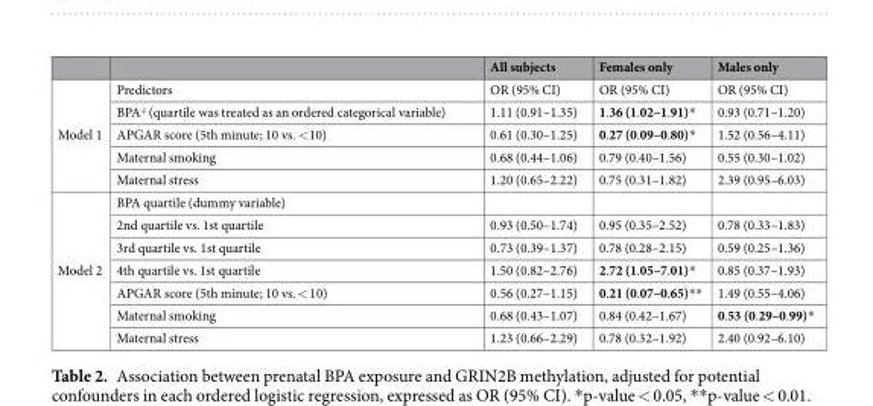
<table><thead><tr><td></td><td></td><td>All subjects</td><td>Females only</td><td>Males only</td></tr></thead><tbody><tr><td rowspan="5">Model 1</td><td>Predictors</td><td>OR (95% CI)</td><td>OR (95% CI)</td><td>OR (95% CI)</td></tr><tr><td>BPA<sup>ϕ</sup> (quartile was treated as an ordered categorical variable)</td><td>1.11 (0.91–1.35)</td><td>1.36 (1.02–1.91)*</td><td>0.93 (0.71–1.20)</td></tr><tr><td>APGAR score (5th minute; 10 vs. &lt;10)</td><td>0.61 (0.30–1.25)</td><td>0.27 (0.09–0.80)*</td><td>1.52 (0.56–4.11)</td></tr><tr><td>Maternal smoking</td><td>0.68 (0.44–1.06)</td><td>0.79 (0.40–1.56)</td><td>0.55 (0.30–1.02)</td></tr><tr><td>Maternal stress</td><td>1.20 (0.65–2.22)</td><td>0.75 (0.31–1.82)</td><td>2.39 (0.95–6.03)</td></tr><tr><td rowspan="7">Model 2</td><td>BPA quartile (dummy variable)</td><td></td><td></td><td></td></tr><tr><td>2nd quartile vs. 1st quartile</td><td>0.93 (0.50–1.74)</td><td>0.95 (0.35–2.52)</td><td>0.78 (0.33–1.83)</td></tr><tr><td>3rd quartile vs. 1st quartile</td><td>0.73 (0.39–1.37)</td><td>0.78 (0.28–2.15)</td><td>0.59 (0.25–1.36)</td></tr><tr><td>4th quartile vs. 1st quartile</td><td>1.50 (0.82–2.76)</td><td>2.72 (1.05–7.01)*</td><td>0.85 (0.37–1.93)</td></tr><tr><td>APGAR score (5th minute; 10 vs. &lt; 10)</td><td>0.56 (0.27–1.15)</td><td>0.21 (0.07–0.65)**</td><td>1.49 (0.55–4.06)</td></tr><tr><td>Maternal smoking</td><td>0.68 (0.43–1.07)</td><td>0.84 (0.42–1.67)</td><td>0.53 (0.29–0.99)*</td></tr><tr><td>Maternal stress</td><td>1.23 (0.66–2.29)</td><td>0.78 (0.32–1.92)</td><td>2.40 (0.92–6.10)</td></tr></tbody></table>